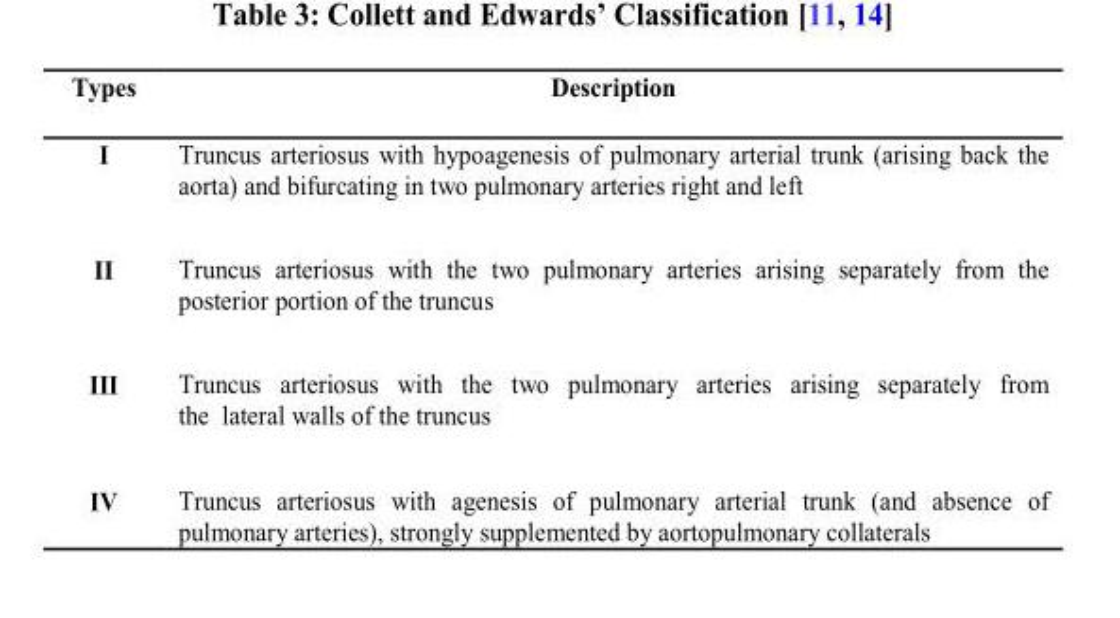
<table><thead><tr><td>Types</td><td>Description</td></tr></thead><tbody><tr><td>I</td><td>Truncus arteriosus with hypoagenesis of pulmonary arterial trunk (arising back the aorta) and bifurcating in two pulmonary arteries right and left</td></tr><tr><td>II</td><td>Truncus arteriosus with the two pulmonary arteries arising separately from the posterior portion of the truncus</td></tr><tr><td>III</td><td>Truncus arteriosus with the two pulmonary arteries arising separately from the lateral walls of the truncus</td></tr><tr><td>IV</td><td>Truncus arteriosus with agenesis of pulmonary arterial trunk (and absence of pulmonary arteries), strongly supplemented by aortopulmonary collaterals</td></tr></tbody></table>